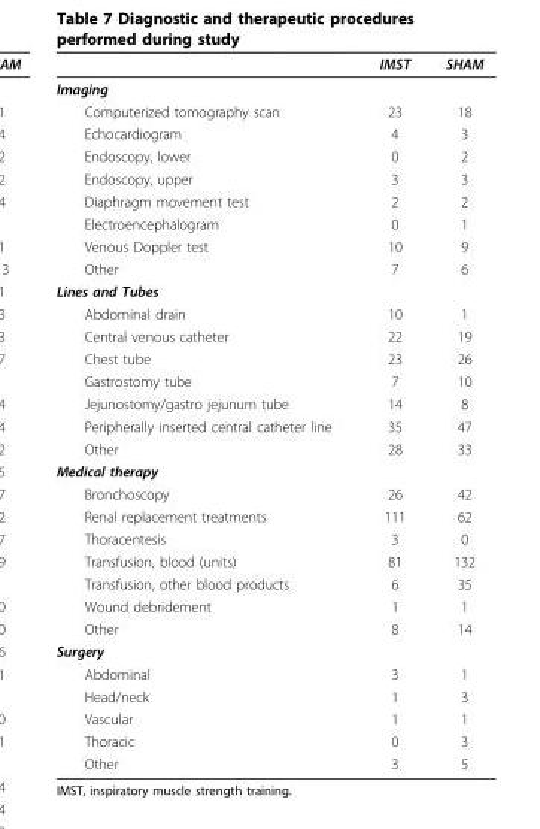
<table><thead><tr><td></td><td>IMST</td><td>SHAM</td></tr></thead><tbody><tr><td colspan="3">Imaging</td></tr><tr><td>Computerized tomography scan</td><td>23</td><td>18</td></tr><tr><td>Echocardiogram</td><td>4</td><td>3</td></tr><tr><td>Endoscopy, lower</td><td>0</td><td>2</td></tr><tr><td>Endoscopy, upper</td><td>3</td><td>3</td></tr><tr><td>Diaphragm movement test</td><td>2</td><td>2</td></tr><tr><td>Electroencephalogram</td><td>0</td><td>1</td></tr><tr><td>Venous Doppler test</td><td>10</td><td>9</td></tr><tr><td>Other</td><td>7</td><td>6</td></tr><tr><td colspan="3">Lines and Tubes</td></tr><tr><td>Abdominal drain</td><td>10</td><td>1</td></tr><tr><td>Central venous catheter</td><td>22</td><td>19</td></tr><tr><td>Chest tube</td><td>23</td><td>26</td></tr><tr><td>Gastrostomy tube</td><td>7</td><td>10</td></tr><tr><td>Jejunostomy/gastro jejunum tube</td><td>14</td><td>8</td></tr><tr><td>Peripherally inserted central catheter line</td><td>35</td><td>47</td></tr><tr><td>Other</td><td>28</td><td>33</td></tr><tr><td colspan="3">Medical therapy</td></tr><tr><td>Bronchoscopy</td><td>26</td><td>42</td></tr><tr><td>Renal replacement treatments</td><td>111</td><td>62</td></tr><tr><td>Thoracentesis</td><td>3</td><td>0</td></tr><tr><td>Transfusion, blood (units)</td><td>81</td><td>132</td></tr><tr><td>Transfusion, other blood products</td><td>6</td><td>35</td></tr><tr><td>Wound debridement</td><td>1</td><td>1</td></tr><tr><td>Other</td><td>8</td><td>14</td></tr><tr><td colspan="3">Surgery</td></tr><tr><td>Abdominal</td><td>3</td><td>1</td></tr><tr><td>Head/neck</td><td>1</td><td>3</td></tr><tr><td>Vascular</td><td>1</td><td>1</td></tr><tr><td>Thoracic</td><td>0</td><td>3</td></tr><tr><td>Other</td><td>3</td><td>5</td></tr></tbody></table>